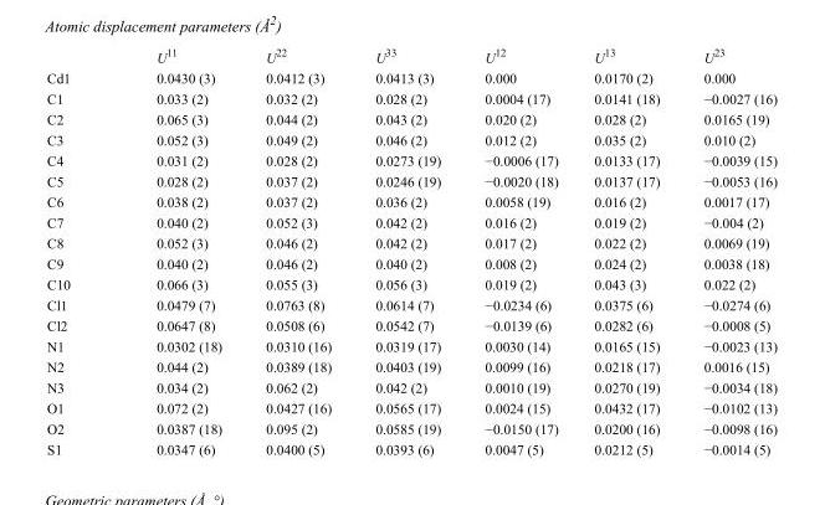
<table><thead><tr><td></td><td>U<sup>11</sup></td><td>U<sup>22</sup></td><td>U<sup>33</sup></td><td>U<sup>12</sup></td><td>U<sup>13</sup></td><td>U<sup>23</sup></td></tr></thead><tbody><tr><td>Cd1</td><td>0.0430 (3)</td><td>0.0412 (3)</td><td>0.0413 (3)</td><td>0.000</td><td>0.0170 (2)</td><td>0.000</td></tr><tr><td>C1</td><td>0.033 (2)</td><td>0.032 (2)</td><td>0.028 (2)</td><td>0.0004 (17)</td><td>0.0141 (18)</td><td>−0.0027 (16)</td></tr><tr><td>C2</td><td>0.065 (3)</td><td>0.044 (2)</td><td>0.043 (2)</td><td>0.020 (2)</td><td>0.028 (2)</td><td>0.0165 (19)</td></tr><tr><td>C3</td><td>0.052 (3)</td><td>0.049 (2)</td><td>0.046 (2)</td><td>0.012 (2)</td><td>0.035 (2)</td><td>0.010 (2)</td></tr><tr><td>C4</td><td>0.031 (2)</td><td>0.028 (2)</td><td>0.0273 (19)</td><td>−0.0006 (17)</td><td>0.0133 (17)</td><td>−0.0039 (15)</td></tr><tr><td>C5</td><td>0.028 (2)</td><td>0.037 (2)</td><td>0.0246 (19)</td><td>−0.0020 (18)</td><td>0.0137 (17)</td><td>−0.0053 (16)</td></tr><tr><td>C6</td><td>0.038 (2)</td><td>0.037 (2)</td><td>0.036 (2)</td><td>0.0058 (19)</td><td>0.016 (2)</td><td>0.0017 (17)</td></tr><tr><td>C7</td><td>0.040 (2)</td><td>0.052 (3)</td><td>0.042 (2)</td><td>0.016 (2)</td><td>0.019 (2)</td><td>−0.004 (2)</td></tr><tr><td>C8</td><td>0.052 (3)</td><td>0.046 (2)</td><td>0.042 (2)</td><td>0.017 (2)</td><td>0.022 (2)</td><td>0.0069 (19)</td></tr><tr><td>C9</td><td>0.040 (2)</td><td>0.046 (2)</td><td>0.040 (2)</td><td>0.008 (2)</td><td>0.024 (2)</td><td>0.0038 (18)</td></tr><tr><td>C10</td><td>0.066 (3)</td><td>0.055 (3)</td><td>0.056 (3)</td><td>0.019 (2)</td><td>0.043 (3)</td><td>0.022 (2)</td></tr><tr><td>Cl1</td><td>0.0479 (7)</td><td>0.0763 (8)</td><td>0.0614 (7)</td><td>−0.0234 (6)</td><td>0.0375 (6)</td><td>−0.0274 (6)</td></tr><tr><td>Cl2</td><td>0.0647 (8)</td><td>0.0508 (6)</td><td>0.0542 (7)</td><td>−0.0139 (6)</td><td>0.0282 (6)</td><td>−0.0008 (5)</td></tr><tr><td>N1</td><td>0.0302 (18)</td><td>0.0310 (16)</td><td>0.0319 (17)</td><td>0.0030 (14)</td><td>0.0165 (15)</td><td>−0.0023 (13)</td></tr><tr><td>N2</td><td>0.044 (2)</td><td>0.0389 (18)</td><td>0.0403 (19)</td><td>0.0099 (16)</td><td>0.0218 (17)</td><td>0.0016 (15)</td></tr><tr><td>N3</td><td>0.034 (2)</td><td>0.062 (2)</td><td>0.042 (2)</td><td>0.0010 (19)</td><td>0.0270 (19)</td><td>−0.0034 (18)</td></tr><tr><td>O1</td><td>0.072 (2)</td><td>0.0427 (16)</td><td>0.0565 (17)</td><td>0.0024 (15)</td><td>0.0432 (17)</td><td>−0.0102 (13)</td></tr><tr><td>O2</td><td>0.0387 (18)</td><td>0.095 (2)</td><td>0.0585 (19)</td><td>−0.0150 (17)</td><td>0.0200 (16)</td><td>−0.0098 (16)</td></tr><tr><td>S1</td><td>0.0347 (6)</td><td>0.0400 (5)</td><td>0.0393 (6)</td><td>0.0047 (5)</td><td>0.0212 (5)</td><td>−0.0014 (5)</td></tr></tbody></table>